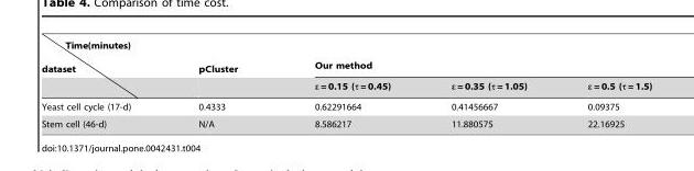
<table><thead><tr><td rowspan="2">Time(minutes) dataset</td><td rowspan="2">pCluster</td><td colspan="3">Our method</td></tr><tr><td>ε = 0.15 (τ = 0.45)</td><td>ε = 0.35 (τ = 1.05)</td><td>ε = 0.5 (τ = 1.5)</td></tr></thead><tbody><tr><td>Yeast cell cycle (17-d)</td><td>0.4333</td><td>0.62291664</td><td>0.41456667</td><td>0.09375</td></tr><tr><td>Stem cell (46-d)</td><td>N/A</td><td>8.586217</td><td>11.880575</td><td>22.16925</td></tr></tbody></table>